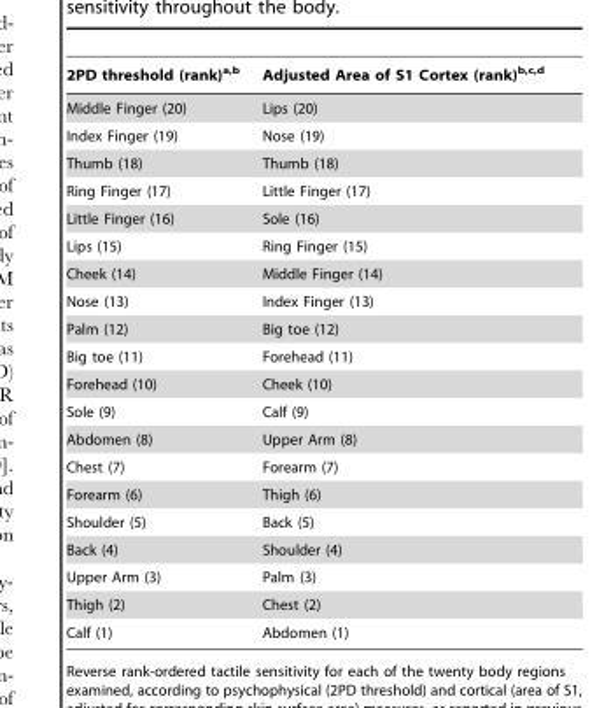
<table><thead><tr><td>2PD threshold (rank)<sup>a,b</sup></td><td>Adjusted Area of S1 Cortex (rank)<sup>b,c,d</sup></td></tr></thead><tbody><tr><td>Middle Finger (20)</td><td>Lips (20)</td></tr><tr><td>Index Finger (19)</td><td>Nose (19)</td></tr><tr><td>Thumb (18)</td><td>Thumb (18)</td></tr><tr><td>Ring Finger (17)</td><td>Little Finger (17)</td></tr><tr><td>Little Finger (16)</td><td>Sole (16)</td></tr><tr><td>Lips (15)</td><td>Ring Finger (15)</td></tr><tr><td>Cheek (14)</td><td>Middle Finger (14)</td></tr><tr><td>Nose (13)</td><td>Index Finger (13)</td></tr><tr><td>Palm (12)</td><td>Big toe (12)</td></tr><tr><td>Big toe (11)</td><td>Forehead (11)</td></tr><tr><td>Forehead (10)</td><td>Cheek (10)</td></tr><tr><td>Sole (9)</td><td>Calf (9)</td></tr><tr><td>Abdomen (8)</td><td>Upper Arm (8)</td></tr><tr><td>Chest (7)</td><td>Forearm (7)</td></tr><tr><td>Forearm (6)</td><td>Thigh (6)</td></tr><tr><td>Shoulder (5)</td><td>Back (5)</td></tr><tr><td>Back (4)</td><td>Shoulder (4)</td></tr><tr><td>Upper Arm (3)</td><td>Palm (3)</td></tr><tr><td>Thigh (2)</td><td>Chest (2)</td></tr><tr><td>Calf (1)</td><td>Abdomen (1)</td></tr></tbody></table>